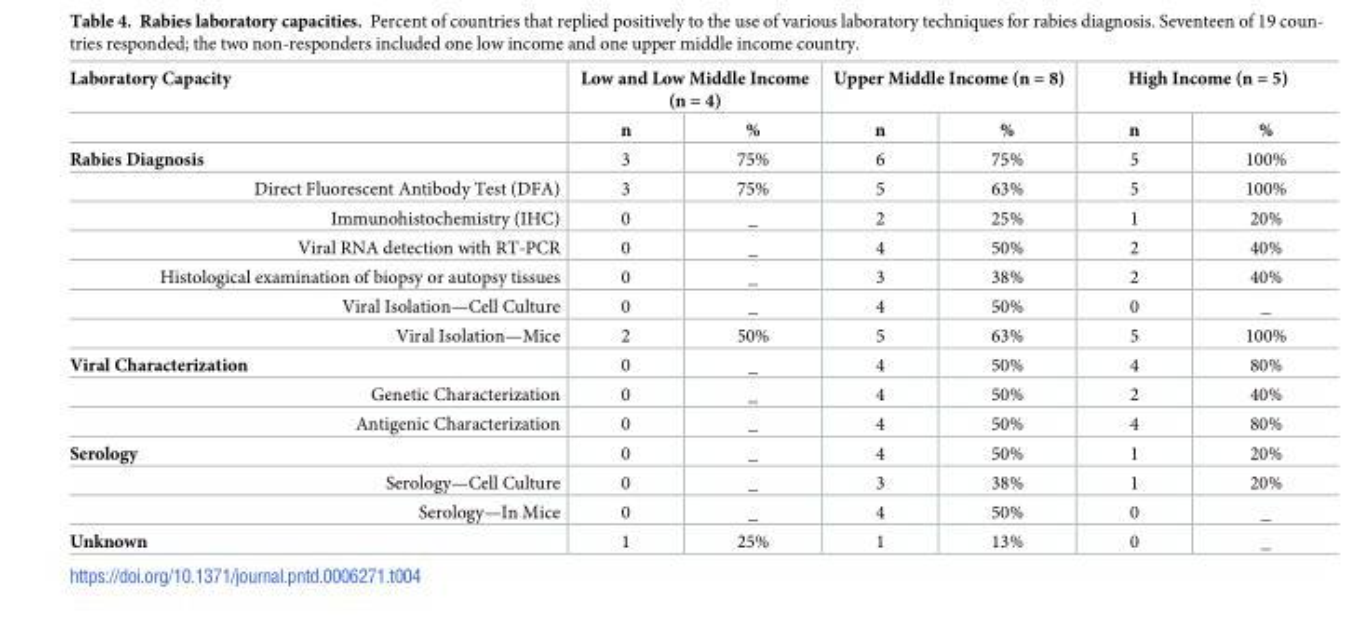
<table><thead><tr><td rowspan="2">Laboratory Capacity</td><td colspan="2">Low and Low Middle Income (n = 4)</td><td colspan="2">Upper Middle Income (n = 8)</td><td colspan="2">High Income (n = 5)</td></tr><tr><td>n</td><td>%</td><td>n</td><td>%</td><td>n</td><td>%</td></tr></thead><tbody><tr><td>Rabies Diagnosis</td><td>3</td><td>75%</td><td>6</td><td>75%</td><td>5</td><td>100%</td></tr><tr><td>Direct Fluorescent Antibody Test (DFA)</td><td>3</td><td>75%</td><td>5</td><td>63%</td><td>5</td><td>100%</td></tr><tr><td>Immunohistochemistry (IHC)</td><td>0</td><td>_</td><td>2</td><td>25%</td><td>1</td><td>20%</td></tr><tr><td>Viral RNA detection with RT-PCR</td><td>0</td><td>_</td><td>4</td><td>50%</td><td>2</td><td>40%</td></tr><tr><td>Histological examination of biopsy or autopsy tissues</td><td>0</td><td>_</td><td>3</td><td>38%</td><td>2</td><td>40%</td></tr><tr><td>Viral Isolation—Cell Culture</td><td>0</td><td>_</td><td>4</td><td>50%</td><td>0</td><td>_</td></tr><tr><td>Viral Isolation—Mice</td><td>2</td><td>50%</td><td>5</td><td>63%</td><td>5</td><td>100%</td></tr><tr><td>Viral Characterization</td><td>0</td><td>_</td><td>4</td><td>50%</td><td>4</td><td>80%</td></tr><tr><td>Genetic Characterization</td><td>0</td><td>_</td><td>4</td><td>50%</td><td>2</td><td>40%</td></tr><tr><td>Antigenic Characterization</td><td>0</td><td>_</td><td>4</td><td>50%</td><td>4</td><td>80%</td></tr><tr><td>Serology</td><td>0</td><td>_</td><td>4</td><td>50%</td><td>1</td><td>20%</td></tr><tr><td>Serology—Cell Culture</td><td>0</td><td>_</td><td>3</td><td>38%</td><td>1</td><td>20%</td></tr><tr><td>Serology—In Mice</td><td>0</td><td>_</td><td>4</td><td>50%</td><td>0</td><td>_</td></tr><tr><td>Unknown</td><td>1</td><td>25%</td><td>1</td><td>13%</td><td>0</td><td>_</td></tr></tbody></table>